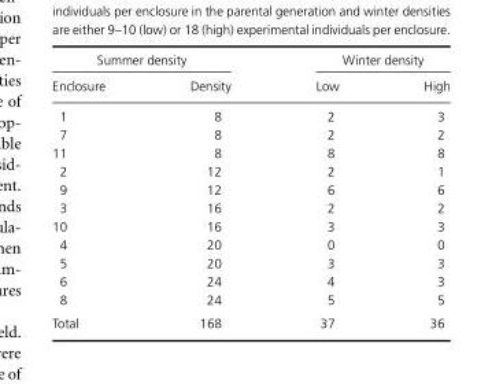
<table><thead><tr><td colspan="2">Summer density</td><td colspan="2">Winter density</td></tr><tr><td>Enclosure</td><td>Density</td><td>Low</td><td>High</td></tr></thead><tbody><tr><td>1</td><td>8</td><td>2</td><td>3</td></tr><tr><td>7</td><td>8</td><td>2</td><td>2</td></tr><tr><td>11</td><td>8</td><td>8</td><td>8</td></tr><tr><td>2</td><td>12</td><td>2</td><td>1</td></tr><tr><td>9</td><td>12</td><td>6</td><td>6</td></tr><tr><td>3</td><td>16</td><td>2</td><td>2</td></tr><tr><td>10</td><td>16</td><td>3</td><td>3</td></tr><tr><td>4</td><td>20</td><td>0</td><td>0</td></tr><tr><td>5</td><td>20</td><td>3</td><td>3</td></tr><tr><td>6</td><td>24</td><td>4</td><td>3</td></tr><tr><td>8</td><td>24</td><td>5</td><td>5</td></tr><tr><td>Total</td><td>168</td><td>37</td><td>36</td></tr></tbody></table>